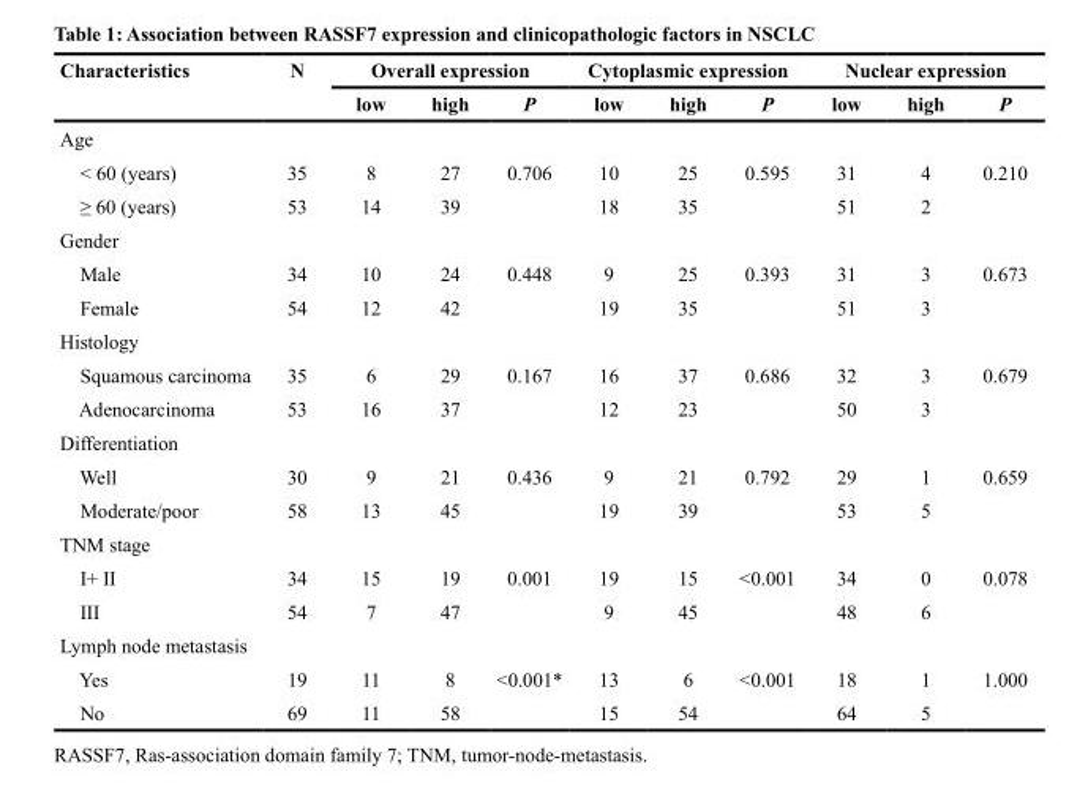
<table><thead><tr><td rowspan="2">Characteristics</td><td rowspan="2">N</td><td colspan="3">Overall expression</td><td colspan="3">Cytoplasmic expression</td><td colspan="3">Nuclear expression</td></tr><tr><td>low</td><td>high</td><td>P</td><td>low</td><td>high</td><td>P</td><td>low</td><td>high</td><td>P</td></tr></thead><tbody><tr><td colspan="11">Age</td></tr><tr><td>&lt; 60 (years)</td><td>35</td><td>8</td><td>27</td><td>0.706</td><td>10</td><td>25</td><td>0.595</td><td>31</td><td>4</td><td>0.210</td></tr><tr><td>≥ 60 (years)</td><td>53</td><td>14</td><td>39</td><td></td><td>18</td><td>35</td><td></td><td>51</td><td>2</td><td></td></tr><tr><td colspan="11">Gender</td></tr><tr><td>Male</td><td>34</td><td>10</td><td>24</td><td>0.448</td><td>9</td><td>25</td><td>0.393</td><td>31</td><td>3</td><td>0.673</td></tr><tr><td>Female</td><td>54</td><td>12</td><td>42</td><td></td><td>19</td><td>35</td><td></td><td>51</td><td>3</td><td></td></tr><tr><td colspan="11">Histology</td></tr><tr><td>Squamous carcinoma</td><td>35</td><td>6</td><td>29</td><td>0.167</td><td>16</td><td>37</td><td>0.686</td><td>32</td><td>3</td><td>0.679</td></tr><tr><td>Adenocarcinoma</td><td>53</td><td>16</td><td>37</td><td></td><td>12</td><td>23</td><td></td><td>50</td><td>3</td><td></td></tr><tr><td colspan="11">Differentiation</td></tr><tr><td>Well</td><td>30</td><td>9</td><td>21</td><td>0.436</td><td>9</td><td>21</td><td>0.792</td><td>29</td><td>1</td><td>0.659</td></tr><tr><td>Moderate/poor</td><td>58</td><td>13</td><td>45</td><td></td><td>19</td><td>39</td><td></td><td>53</td><td>5</td><td></td></tr><tr><td colspan="11">TNM stage</td></tr><tr><td>I+ II</td><td>34</td><td>15</td><td>19</td><td>0.001</td><td>19</td><td>15</td><td>&lt;0.001</td><td>34</td><td>0</td><td>0.078</td></tr><tr><td>III</td><td>54</td><td>7</td><td>47</td><td></td><td>9</td><td>45</td><td></td><td>48</td><td>6</td><td></td></tr><tr><td colspan="11">Lymph node metastasis</td></tr><tr><td>Yes</td><td>19</td><td>11</td><td>8</td><td>&lt;0.001*</td><td>13</td><td>6</td><td>&lt;0.001</td><td>18</td><td>1</td><td>1.000</td></tr><tr><td>No</td><td>69</td><td>11</td><td>58</td><td></td><td>15</td><td>54</td><td></td><td>64</td><td>5</td><td></td></tr></tbody></table>